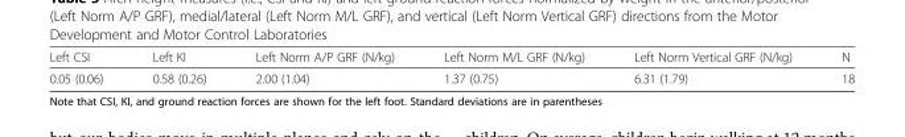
<table><thead><tr><td>Left CSI</td><td>Left KI</td><td>Left Norm A/P GRF (N/kg)</td><td>Left Norm M/L GRF (N/kg)</td><td>Left Norm Vertical GRF (N/kg)</td><td>N</td></tr></thead><tbody><tr><td>0.05 (0.06)</td><td>0.58 (0.26)</td><td>2.00 (1.04)</td><td>1.37 (0.75)</td><td>6.31 (1.79)</td><td>18</td></tr></tbody></table>